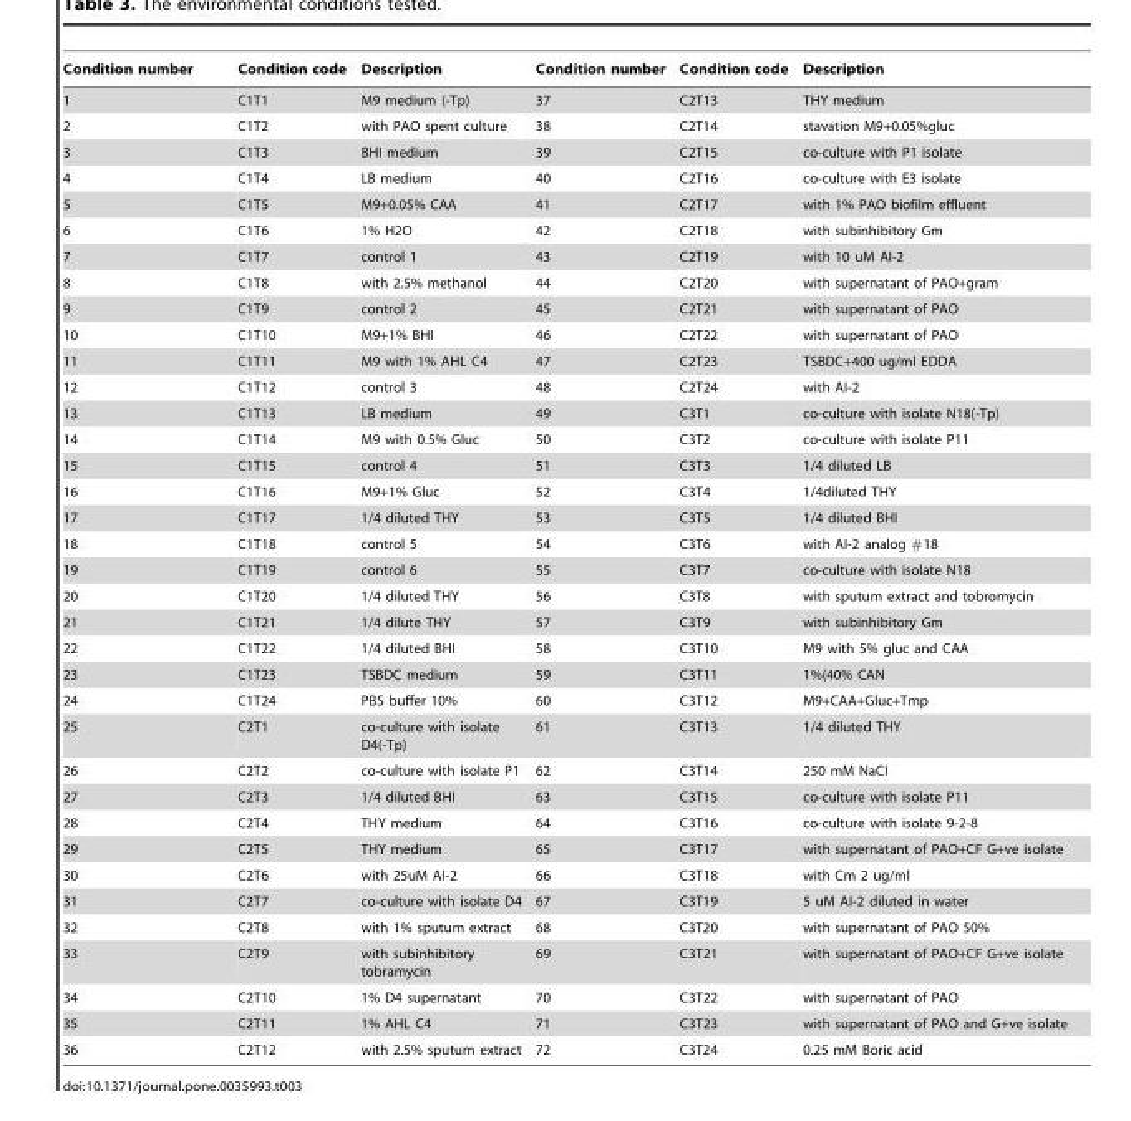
<table><thead><tr><td>Condition number</td><td>Condition code</td><td>Description</td><td>Condition number</td><td>Condition code</td><td>Description</td></tr></thead><tbody><tr><td>1</td><td>C1T1</td><td>M9 medium (-Tp)</td><td>37</td><td>C2T13</td><td>THY medium</td></tr><tr><td>2</td><td>C1T2</td><td>with PAO spent culture</td><td>38</td><td>C2T14</td><td>stavation M9+0.05%gluc</td></tr><tr><td>3</td><td>C1T3</td><td>BHI medium</td><td>39</td><td>C2T15</td><td>co-culture with P1 isolate</td></tr><tr><td>4</td><td>C1T4</td><td>LB medium</td><td>40</td><td>C2T16</td><td>co-culture with E3 isolate</td></tr><tr><td>5</td><td>C1T5</td><td>M9+0.05% CAA</td><td>41</td><td>C2T17</td><td>with 1% PAO biofilm effluent</td></tr><tr><td>6</td><td>C1T6</td><td>1% H2O</td><td>42</td><td>C2T18</td><td>with subinhibitory Gm</td></tr><tr><td>7</td><td>C1T7</td><td>control 1</td><td>43</td><td>C2T19</td><td>with 10 uM AI-2</td></tr><tr><td>8</td><td>C1T8</td><td>with 2.5% methanol</td><td>44</td><td>C2T20</td><td>with supernatant of PAO+gram</td></tr><tr><td>9</td><td>C1T9</td><td>control 2</td><td>45</td><td>C2T21</td><td>with supernatant of PAO</td></tr><tr><td>10</td><td>C1T10</td><td>M9+1% BHI</td><td>46</td><td>C2T22</td><td>with supernatant of PAO</td></tr><tr><td>11</td><td>C1T11</td><td>M9 with 1% AHL C4</td><td>47</td><td>C2T23</td><td>TSBDC+400 ug/ml EDDA</td></tr><tr><td>12</td><td>C1T12</td><td>control 3</td><td>48</td><td>C2T24</td><td>with AI-2</td></tr><tr><td>13</td><td>C1T13</td><td>LB medium</td><td>49</td><td>C3T1</td><td>co-culture with isolate N18(-Tp)</td></tr><tr><td>14</td><td>C1T14</td><td>M9 with 0.5% Gluc</td><td>50</td><td>C3T2</td><td>co-culture with isolate P11</td></tr><tr><td>15</td><td>C1T15</td><td>control 4</td><td>51</td><td>C3T3</td><td>1/4 diluted LB</td></tr><tr><td>16</td><td>C1T16</td><td>M9+1% Gluc</td><td>52</td><td>C3T4</td><td>1/4diluted THY</td></tr><tr><td>17</td><td>C1T17</td><td>1/4 diluted THY</td><td>53</td><td>C3T5</td><td>1/4 diluted BHI</td></tr><tr><td>18</td><td>C1T18</td><td>control 5</td><td>54</td><td>C3T6</td><td>with AI-2 analog #18</td></tr><tr><td>19</td><td>C1T19</td><td>control 6</td><td>55</td><td>C3T7</td><td>co-culture with isolate N18</td></tr><tr><td>20</td><td>C1T20</td><td>1/4 diluted THY</td><td>56</td><td>C3T8</td><td>with sputum extract and tobromycin</td></tr><tr><td>21</td><td>C1T21</td><td>1/4 dilute THY</td><td>57</td><td>C3T9</td><td>with subinhibitory Gm</td></tr><tr><td>22</td><td>C1T22</td><td>1/4 diluted BHI</td><td>58</td><td>C3T10</td><td>M9 with 5% gluc and CAA</td></tr><tr><td>23</td><td>C1T23</td><td>TSBDC medium</td><td>59</td><td>C3T11</td><td>1%(40% CAN</td></tr><tr><td>24</td><td>C1T24</td><td>PBS buffer 10%</td><td>60</td><td>C3T12</td><td>M9+CAA+Gluc+Tmp</td></tr><tr><td>25</td><td>C2T1</td><td>co-culture with isolate D4(-Tp)</td><td>61</td><td>C3T13</td><td>1/4 diluted THY</td></tr><tr><td>26</td><td>C2T2</td><td>co-culture with isolate P1</td><td>62</td><td>C3T14</td><td>250 mM NaCI</td></tr><tr><td>27</td><td>C2T3</td><td>1/4 diluted BHI</td><td>63</td><td>C3T15</td><td>co-culture with isolate P11</td></tr><tr><td>28</td><td>C2T4</td><td>THY medium</td><td>64</td><td>C3T16</td><td>co-culture with isolate 9-2-8</td></tr><tr><td>29</td><td>C2T5</td><td>THY medium</td><td>65</td><td>C3T17</td><td>with supernatant of PAO+CF G+ve isolate</td></tr><tr><td>30</td><td>C2T6</td><td>with 25uM AI-2</td><td>66</td><td>C3T18</td><td>with Cm 2 ug/ml</td></tr><tr><td>31</td><td>C2T7</td><td>co-culture with isolate D4</td><td>67</td><td>C3T19</td><td>5 uM AI-2 diluted in water</td></tr><tr><td>32</td><td>C2T8</td><td>with 1% sputum extract</td><td>68</td><td>C3T20</td><td>with supernatant of PAO 50%</td></tr><tr><td>33</td><td>C2T9</td><td>with subinhibitory tobramycin</td><td>69</td><td>C3T21</td><td>with supernatant of PAO+CF G+ve isolate</td></tr><tr><td>34</td><td>C2T10</td><td>1% D4 supernatant</td><td>70</td><td>C3T22</td><td>with supernatant of PAO</td></tr><tr><td>35</td><td>C2T11</td><td>1% AHL C4</td><td>71</td><td>C3T23</td><td>with supernatant of PAO and G+ve isolate</td></tr><tr><td>36</td><td>C2T12</td><td>with 2.5% sputum extract</td><td>72</td><td>C3T24</td><td>0.25 mM Boric acid</td></tr></tbody></table>